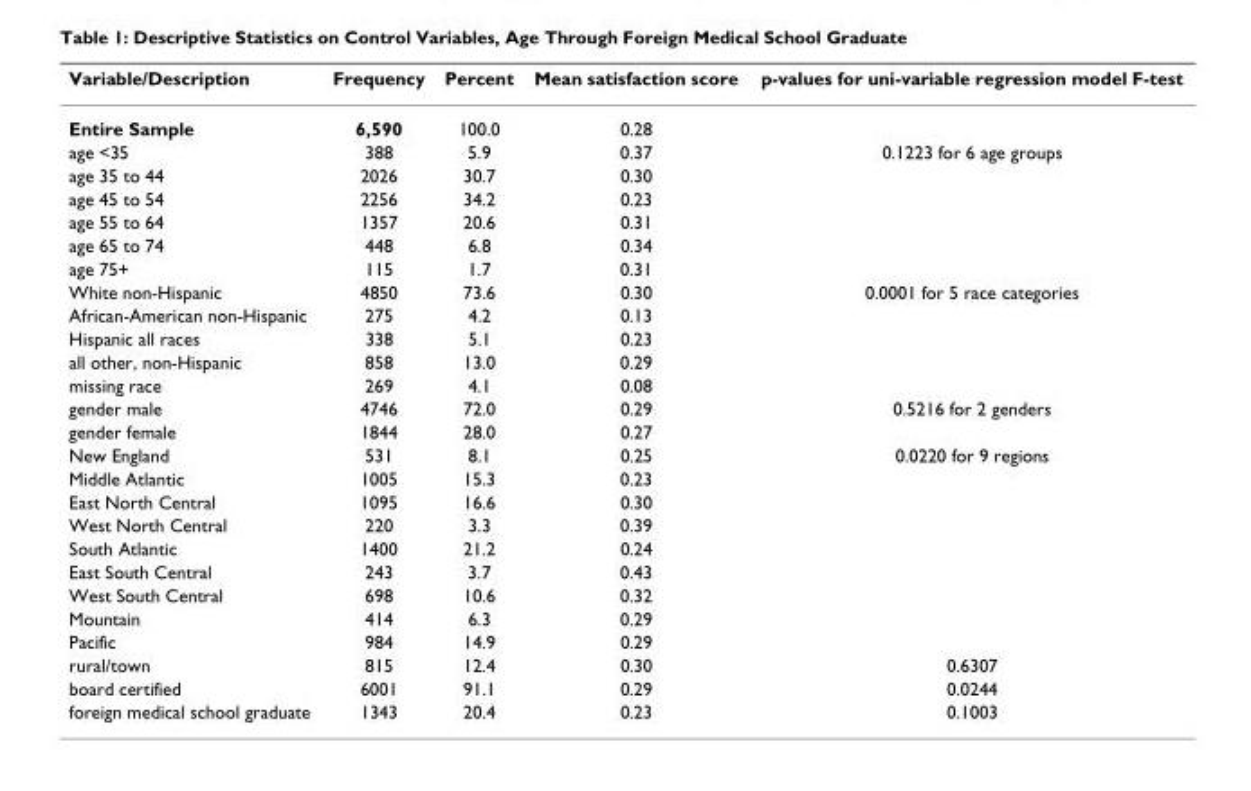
<table><thead><tr><td>Variable/Description</td><td>Frequency</td><td>Percent</td><td>Mean satisfaction score</td><td>p-values for uni-variable regression model F-test</td></tr></thead><tbody><tr><td>Entire Sample</td><td>6,590</td><td>100.0</td><td>0.28</td><td></td></tr><tr><td>age &lt;35</td><td>388</td><td>5.9</td><td>0.37</td><td>0.1223 for 6 age groups</td></tr><tr><td>age 35 to 44</td><td>2026</td><td>30.7</td><td>0.30</td><td></td></tr><tr><td>age 45 to 54</td><td>2256</td><td>34.2</td><td>0.23</td><td></td></tr><tr><td>age 55 to 64</td><td>1357</td><td>20.6</td><td>0.31</td><td></td></tr><tr><td>age 65 to 74</td><td>448</td><td>6.8</td><td>0.34</td><td></td></tr><tr><td>age 75+</td><td>115</td><td>1.7</td><td>0.31</td><td></td></tr><tr><td>White non-Hispanic</td><td>4850</td><td>73.6</td><td>0.30</td><td>0.0001 for 5 race categories</td></tr><tr><td>African-American non-Hispanic</td><td>275</td><td>4.2</td><td>0.13</td><td></td></tr><tr><td>Hispanic all races</td><td>338</td><td>5.1</td><td>0.23</td><td></td></tr><tr><td>all other, non-Hispanic</td><td>858</td><td>13.0</td><td>0.29</td><td></td></tr><tr><td>missing race</td><td>269</td><td>4.1</td><td>0.08</td><td></td></tr><tr><td>gender male</td><td>4746</td><td>72.0</td><td>0.29</td><td>0.5216 for 2 genders</td></tr><tr><td>gender female</td><td>1844</td><td>28.0</td><td>0.27</td><td></td></tr><tr><td>New England</td><td>531</td><td>8.1</td><td>0.25</td><td>0.0220 for 9 regions</td></tr><tr><td>Middle Atlantic</td><td>1005</td><td>15.3</td><td>0.23</td><td></td></tr><tr><td>East North Central</td><td>1095</td><td>16.6</td><td>0.30</td><td></td></tr><tr><td>West North Central</td><td>220</td><td>3.3</td><td>0.39</td><td></td></tr><tr><td>South Atlantic</td><td>1400</td><td>21.2</td><td>0.24</td><td></td></tr><tr><td>East South Central</td><td>243</td><td>3.7</td><td>0.43</td><td></td></tr><tr><td>West South Central</td><td>698</td><td>10.6</td><td>0.32</td><td></td></tr><tr><td>Mountain</td><td>414</td><td>6.3</td><td>0.29</td><td></td></tr><tr><td>Pacific</td><td>984</td><td>14.9</td><td>0.29</td><td></td></tr><tr><td>rural/town</td><td>815</td><td>12.4</td><td>0.30</td><td>0.6307</td></tr><tr><td>board certified</td><td>6001</td><td>91.1</td><td>0.29</td><td>0.0244</td></tr><tr><td>foreign medical school graduate</td><td>1343</td><td>20.4</td><td>0.23</td><td>0.1003</td></tr></tbody></table>